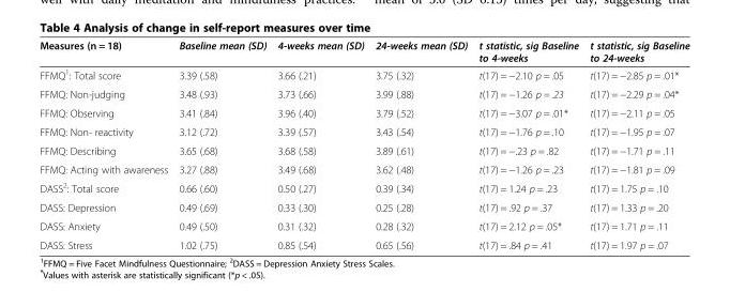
<table><thead><tr><td>Measures (n = 18)</td><td>Baseline mean (SD)</td><td>4-weeks mean (SD)</td><td>24-weeks mean (SD)</td><td>t statistic, sig Baseline to 4-weeks</td><td>t statistic, sig Baseline to 24-weeks</td></tr></thead><tbody><tr><td>FFMQ<sup>1</sup>: Total score</td><td>3.39 (.58)</td><td>3.66 (.21)</td><td>3.75 (.32)</td><td>t(17) = −2.10 p = .05</td><td>t(17) = −2.85 p = .01*</td></tr><tr><td>FFMQ: Non-judging</td><td>3.48 (.93)</td><td>3.73 (.66)</td><td>3.99 (.88)</td><td>t(17) = −1.26 p = .23</td><td>t(17) = −2.29 p = .04*</td></tr><tr><td>FFMQ: Observing</td><td>3.41 (.84)</td><td>3.96 (.40)</td><td>3.79 (.52)</td><td>t(17) = −3.07 p = .01*</td><td>t(17) = −2.11 p = .05</td></tr><tr><td>FFMQ: Non- reactivity</td><td>3.12 (.72)</td><td>3.39 (.57)</td><td>3.43 (.54)</td><td>t(17) = −1.76 p = .10</td><td>t(17) = −1.95 p = .07</td></tr><tr><td>FFMQ: Describing</td><td>3.65 (.68)</td><td>3.68 (.58)</td><td>3.89 (.61)</td><td>t(17) = −.23 p = .82</td><td>t(17) = −1.71 p = .11</td></tr><tr><td>FFMQ: Acting with awareness</td><td>3.27 (.88)</td><td>3.49 (.68)</td><td>3.62 (.48)</td><td>t(17) = −1.26 p = .23</td><td>t(17) = −1.81 p = .09</td></tr><tr><td>DASS<sup>2</sup>: Total score</td><td>0.66 (.60)</td><td>0.50 (.27)</td><td>0.39 (.34)</td><td>t(17) = 1.24 p = .23</td><td>t(17) = 1.75 p = .10</td></tr><tr><td>DASS: Depression</td><td>0.49 (.69)</td><td>0.33 (.30)</td><td>0.25 (.28)</td><td>t(17) = .92 p = .37</td><td>t(17) = 1.33 p = .20</td></tr><tr><td>DASS: Anxiety</td><td>0.49 (.50)</td><td>0.31 (.32)</td><td>0.28 (.32)</td><td>t(17) = 2.12 p = .05*</td><td>t(17) = 1.71 p = .11</td></tr><tr><td>DASS: Stress</td><td>1.02 (.75)</td><td>0.85 (.54)</td><td>0.65 (.56)</td><td>t(17) = .84 p = .41</td><td>t(17) = 1.97 p = .07</td></tr></tbody></table>